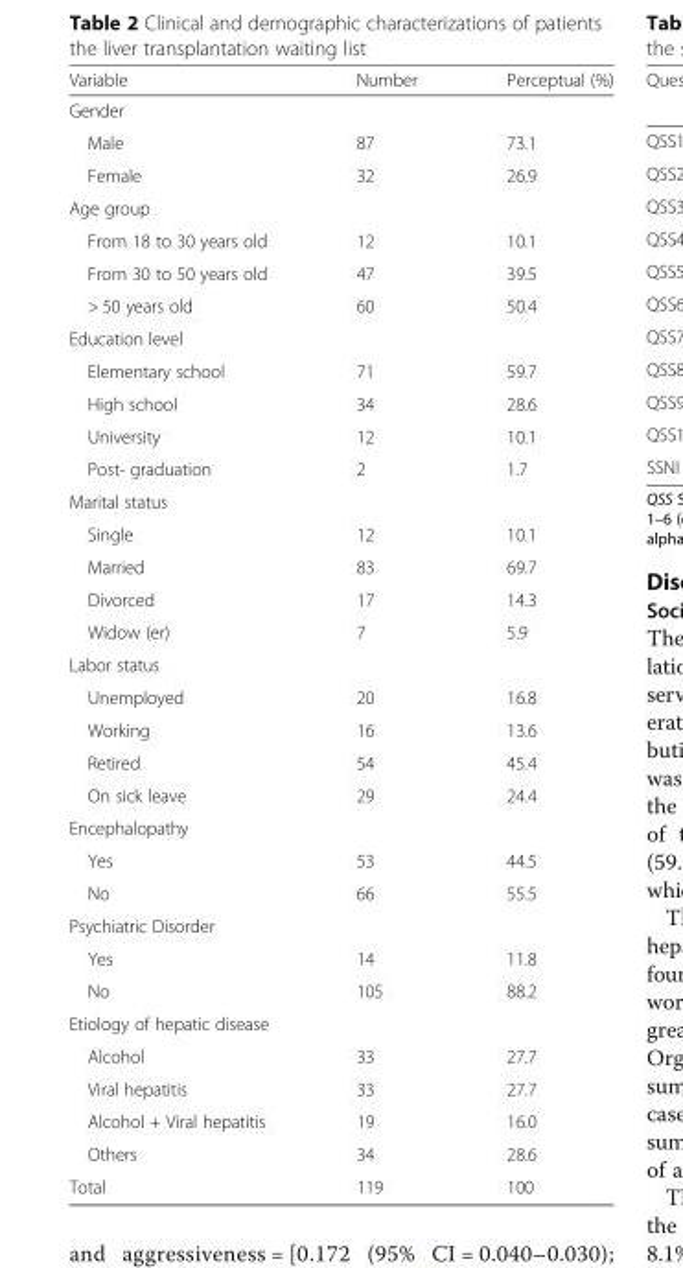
<table><thead><tr><td>Variable</td><td>Number</td><td>Perceptual (%)</td></tr></thead><tbody><tr><td colspan="3">Gender</td></tr><tr><td>Male</td><td>87</td><td>73.1</td></tr><tr><td>Female</td><td>32</td><td>26.9</td></tr><tr><td colspan="3">Age group</td></tr><tr><td>From 18 to 30 years old</td><td>12</td><td>10.1</td></tr><tr><td>From 30 to 50 years old</td><td>47</td><td>39.5</td></tr><tr><td>&gt; 50 years old</td><td>60</td><td>50.4</td></tr><tr><td colspan="3">Education level</td></tr><tr><td>Elementary school</td><td>71</td><td>59.7</td></tr><tr><td>High school</td><td>34</td><td>28.6</td></tr><tr><td>University</td><td>12</td><td>10.1</td></tr><tr><td>Post- graduation</td><td>2</td><td>1.7</td></tr><tr><td colspan="3">Marital status</td></tr><tr><td>Single</td><td>12</td><td>10.1</td></tr><tr><td>Married</td><td>83</td><td>69.7</td></tr><tr><td>Divorced</td><td>17</td><td>14.3</td></tr><tr><td>Widow (er)</td><td>7</td><td>5.9</td></tr><tr><td colspan="3">Labor status</td></tr><tr><td>Unemployed</td><td>20</td><td>16.8</td></tr><tr><td>Working</td><td>16</td><td>13.6</td></tr><tr><td>Retired</td><td>54</td><td>45.4</td></tr><tr><td>On sick leave</td><td>29</td><td>24.4</td></tr><tr><td colspan="3">Encephalopathy</td></tr><tr><td>Yes</td><td>53</td><td>44.5</td></tr><tr><td>No</td><td>66</td><td>55.5</td></tr><tr><td colspan="3">Psychiatric Disorder</td></tr><tr><td>Yes</td><td>14</td><td>11.8</td></tr><tr><td>No</td><td>105</td><td>88.2</td></tr><tr><td colspan="3">Etiology of hepatic disease</td></tr><tr><td>Alcohol</td><td>33</td><td>27.7</td></tr><tr><td>Viral hepatitis</td><td>33</td><td>27.7</td></tr><tr><td>Alcohol + Viral hepatitis</td><td>19</td><td>16.0</td></tr><tr><td>Others</td><td>34</td><td>28.6</td></tr><tr><td>Total</td><td>119</td><td>100</td></tr></tbody></table>